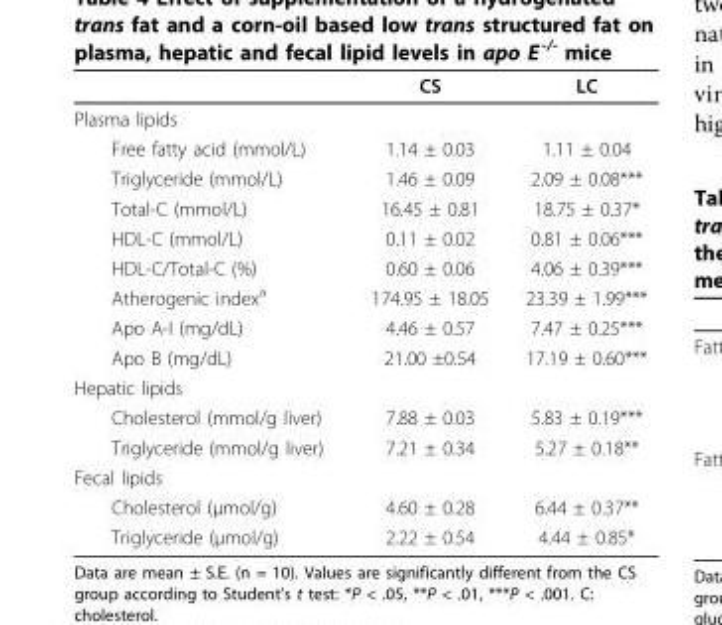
<table><thead><tr><td></td><td>CS</td><td>LC</td></tr></thead><tbody><tr><td colspan="3">Plasma lipids</td></tr><tr><td>Free fatty acid (mmol/L)</td><td>1.14 ± 0.03</td><td>1.11 ± 0.04</td></tr><tr><td>Triglyceride (mmol/L)</td><td>1.46 ± 0.09</td><td>2.09 ± 0.08***</td></tr><tr><td>Total-C (mmol/L)</td><td>16.45 ± 0.81</td><td>18.75 ± 0.37*</td></tr><tr><td>HDL-C (mmol/L)</td><td>0.11 ± 0.02</td><td>0.81 ± 0.06***</td></tr><tr><td>HDL-C/Total-C (%)</td><td>0.60 ± 0.06</td><td>4.06 ± 0.39***</td></tr><tr><td>Atherogenic index<sup>a</sup></td><td>174.95 ± 18.05</td><td>23.39 ± 1.99***</td></tr><tr><td>Apo A-I (mg/dL)</td><td>4.46 ± 0.57</td><td>7.47 ± 0.25***</td></tr><tr><td>Apo B (mg/dL)</td><td>21.00 ±0.54</td><td>17.19 ± 0.60***</td></tr><tr><td colspan="3">Hepatic lipids</td></tr><tr><td>Cholesterol (mmol/g liver)</td><td>7.88 ± 0.03</td><td>5.83 ± 0.19***</td></tr><tr><td>Triglyceride (mmol/g liver)</td><td>7.21 ± 0.34</td><td>5.27 ± 0.18**</td></tr><tr><td colspan="3">Fecal lipids</td></tr><tr><td>Cholesterol (μmol/g)</td><td>4.60 ± 0.28</td><td>6.44 ± 0.37**</td></tr><tr><td>Triglyceride (μmol/g)</td><td>2.22 ± 0.54</td><td>4.44 ± 0.85*</td></tr></tbody></table>